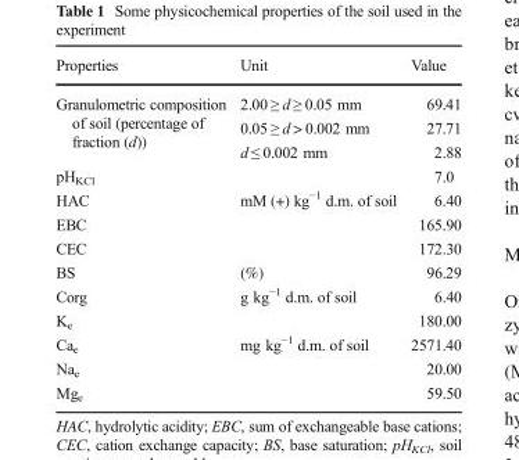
<table><thead><tr><td>Properties</td><td>Unit</td><td>Value</td></tr></thead><tbody><tr><td rowspan="3">Granulometric composition of soil (percentage of fraction (d))</td><td>2.00 ≥ d ≥ 0.05 mm</td><td>69.41</td></tr><tr><td>0.05 ≥ d &gt; 0.002 mm</td><td>27.71</td></tr><tr><td>d ≤ 0.002 mm</td><td>2.88</td></tr><tr><td>pH<sub>KCl</sub></td><td></td><td>7.0</td></tr><tr><td>HAC</td><td rowspan="2">mM (+) kg<sup>−1</sup> d.m. of soil</td><td>6.40</td></tr><tr><td>EBC</td><td>165.90</td></tr><tr><td>CEC</td><td></td><td>172.30</td></tr><tr><td>BS</td><td>(%)</td><td>96.29</td></tr><tr><td>Corg</td><td>g kg<sup>−1</sup> d.m. of soil</td><td>6.40</td></tr><tr><td>K<sub>e</sub></td><td></td><td>180.00</td></tr><tr><td>Ca<sub>e</sub></td><td>mg kg<sup>−1</sup> d.m. of soil</td><td>2571.40</td></tr><tr><td>Na<sub>e</sub></td><td></td><td>20.00</td></tr><tr><td>Mg<sub>e</sub></td><td></td><td>59.50</td></tr></tbody></table>